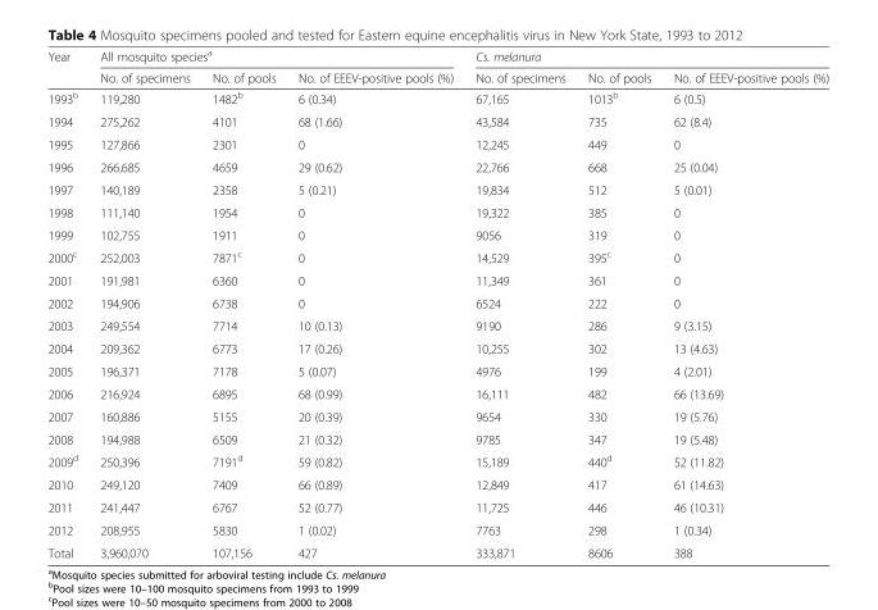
<table><thead><tr><td rowspan="2">Year</td><td colspan="3">All mosquito species<sup>a</sup></td><td colspan="3">Cs. melanura</td></tr><tr><td>No. of specimens</td><td>No. of pools</td><td>No. of EEEV-positive pools (%)</td><td>No. of specimens</td><td>No. of pools</td><td>No. of EEEV-positive pools (%)</td></tr></thead><tbody><tr><td>1993<sup>b</sup></td><td>119,280</td><td>1482<sup>b</sup></td><td>6 (0.34)</td><td>67,165</td><td>1013<sup>b</sup></td><td>6 (0.5)</td></tr><tr><td>1994</td><td>275,262</td><td>4101</td><td>68 (1.66)</td><td>43,584</td><td>735</td><td>62 (8.4)</td></tr><tr><td>1995</td><td>127,866</td><td>2301</td><td>0</td><td>12,245</td><td>449</td><td>0</td></tr><tr><td>1996</td><td>266,685</td><td>4659</td><td>29 (0.62)</td><td>22,766</td><td>668</td><td>25 (0.04)</td></tr><tr><td>1997</td><td>140,189</td><td>2358</td><td>5 (0.21)</td><td>19,834</td><td>512</td><td>5 (0.01)</td></tr><tr><td>1998</td><td>111,140</td><td>1954</td><td>0</td><td>19,322</td><td>385</td><td>0</td></tr><tr><td>1999</td><td>102,755</td><td>1911</td><td>0</td><td>9056</td><td>319</td><td>0</td></tr><tr><td>2000<sup>c</sup></td><td>252,003</td><td>7871<sup>c</sup></td><td>0</td><td>14,529</td><td>395<sup>c</sup></td><td>0</td></tr><tr><td>2001</td><td>191,981</td><td>6360</td><td>0</td><td>11,349</td><td>361</td><td>0</td></tr><tr><td>2002</td><td>194,906</td><td>6738</td><td>0</td><td>6524</td><td>222</td><td>0</td></tr><tr><td>2003</td><td>249,554</td><td>7714</td><td>10 (0.13)</td><td>9190</td><td>286</td><td>9 (3.15)</td></tr><tr><td>2004</td><td>209,362</td><td>6773</td><td>17 (0.26)</td><td>10,255</td><td>302</td><td>13 (4.63)</td></tr><tr><td>2005</td><td>196,371</td><td>7178</td><td>5 (0.07)</td><td>4976</td><td>199</td><td>4 (2.01)</td></tr><tr><td>2006</td><td>216,924</td><td>6895</td><td>68 (0.99)</td><td>16,111</td><td>482</td><td>66 (13.69)</td></tr><tr><td>2007</td><td>160,886</td><td>5155</td><td>20 (0.39)</td><td>9654</td><td>330</td><td>19 (5.76)</td></tr><tr><td>2008</td><td>194,988</td><td>6509</td><td>21 (0.32)</td><td>9785</td><td>347</td><td>19 (5.48)</td></tr><tr><td>2009<sup>d</sup></td><td>250,396</td><td>7191<sup>d</sup></td><td>59 (0.82)</td><td>15,189</td><td>440<sup>d</sup></td><td>52 (11.82)</td></tr><tr><td>2010</td><td>249,120</td><td>7409</td><td>66 (0.89)</td><td>12,849</td><td>417</td><td>61 (14.63)</td></tr><tr><td>2011</td><td>241,447</td><td>6767</td><td>52 (0.77)</td><td>11,725</td><td>446</td><td>46 (10.31)</td></tr><tr><td>2012</td><td>208,955</td><td>5830</td><td>1 (0.02)</td><td>7763</td><td>298</td><td>1 (0.34)</td></tr><tr><td>Total</td><td>3,960,070</td><td>107,156</td><td>427</td><td>333,871</td><td>8606</td><td>388</td></tr></tbody></table>